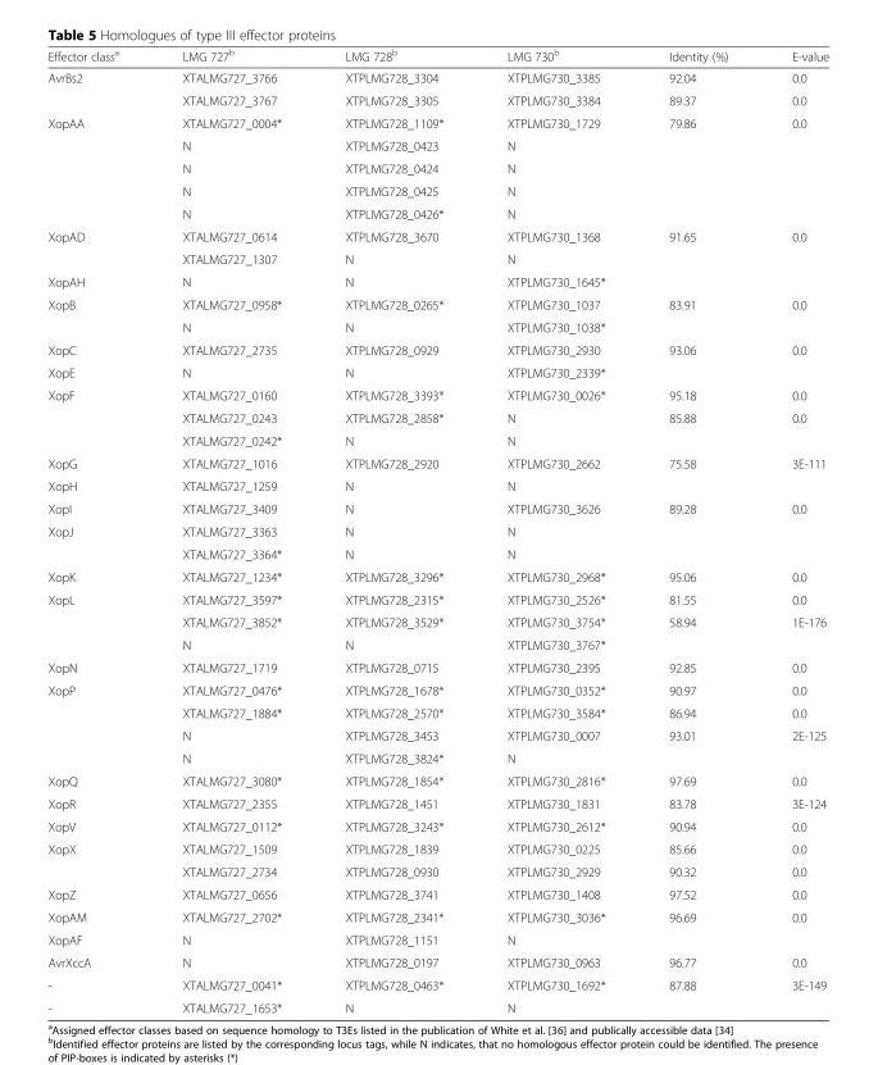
<table><thead><tr><td>Effector class<sup>a</sup></td><td>LMG 727<sup>b</sup></td><td>LMG 728<sup>b</sup></td><td>LMG 730<sup>b</sup></td><td>Identity (%)</td><td>E-value</td></tr></thead><tbody><tr><td rowspan="2">AvrBs2</td><td>XTALMG727_3766</td><td>XTPLMG728_3304</td><td>XTPLMG730_3385</td><td>92.04</td><td>0.0</td></tr><tr><td>XTALMG727_3767</td><td>XTPLMG728_3305</td><td>XTPLMG730_3384</td><td>89.37</td><td>0.0</td></tr><tr><td rowspan="5">XopAA</td><td>XTALMG727_0004*</td><td>XTPLMG728_1109*</td><td>XTPLMG730_1729</td><td>79.86</td><td>0.0</td></tr><tr><td>N</td><td>XTPLMG728_0423</td><td>N</td><td></td><td></td></tr><tr><td>N</td><td>XTPLMG728_0424</td><td>N</td><td></td><td></td></tr><tr><td>N</td><td>XTPLMG728_0425</td><td>N</td><td></td><td></td></tr><tr><td>N</td><td>XTPLMG728_0426*</td><td>N</td><td></td><td></td></tr><tr><td rowspan="2">XopAD</td><td>XTALMG727_0614</td><td>XTPLMG728_3670</td><td>XTPLMG730_1368</td><td>91.65</td><td>0.0</td></tr><tr><td>XTALMG727_1307</td><td>N</td><td>N</td><td></td><td></td></tr><tr><td>XopAH</td><td>N</td><td>N</td><td>XTPLMG730_1645*</td><td></td><td></td></tr><tr><td rowspan="2">XopB</td><td>XTALMG727_0958*</td><td>XTPLMG728_0265*</td><td>XTPLMG730_1037</td><td>83.91</td><td>0.0</td></tr><tr><td>N</td><td>N</td><td>XTPLMG730_1038*</td><td></td><td></td></tr><tr><td>XopC</td><td>XTALMG727_2735</td><td>XTPLMG728_0929</td><td>XTPLMG730_2930</td><td>93.06</td><td>0.0</td></tr><tr><td>XopE</td><td>N</td><td>N</td><td>XTPLMG730_2339*</td><td></td><td></td></tr><tr><td rowspan="3">XopF</td><td>XTALMG727_0160</td><td>XTPLMG728_3393*</td><td>XTPLMG730_0026*</td><td>95.18</td><td>0.0</td></tr><tr><td>XTALMG727_0243</td><td>XTPLMG728_2858*</td><td>N</td><td>85.88</td><td>0.0</td></tr><tr><td>XTALMG727_0242*</td><td>N</td><td>N</td><td></td><td></td></tr><tr><td>XopG</td><td>XTALMG727_1016</td><td>XTPLMG728_2920</td><td>XTPLMG730_2662</td><td>75.58</td><td>3E-111</td></tr><tr><td>XopH</td><td>XTALMG727_1259</td><td>N</td><td>N</td><td></td><td></td></tr><tr><td>XopI</td><td>XTALMG727_3409</td><td>N</td><td>XTPLMG730_3626</td><td>89.28</td><td>0.0</td></tr><tr><td rowspan="2">XopJ</td><td>XTALMG727_3363</td><td>N</td><td>N</td><td></td><td></td></tr><tr><td>XTALMG727_3364*</td><td>N</td><td>N</td><td></td><td></td></tr><tr><td>XopK</td><td>XTALMG727_1234*</td><td>XTPLMG728_3296*</td><td>XTPLMG730_2968*</td><td>95.06</td><td>0.0</td></tr><tr><td rowspan="3">XopL</td><td>XTALMG727_3597*</td><td>XTPLMG728_2315*</td><td>XTPLMG730_2526*</td><td>81.55</td><td>0.0</td></tr><tr><td>XTALMG727_3852*</td><td>XTPLMG728_3529*</td><td>XTPLMG730_3754*</td><td>58.94</td><td>1E-176</td></tr><tr><td>N</td><td>N</td><td>XTPLMG730_3767*</td><td></td><td></td></tr><tr><td>XopN</td><td>XTALMG727_1719</td><td>XTPLMG728_0715</td><td>XTPLMG730_2395</td><td>92.85</td><td>0.0</td></tr><tr><td rowspan="4">XopP</td><td>XTALMG727_0476*</td><td>XTPLMG728_1678*</td><td>XTPLMG730_0352*</td><td>90.97</td><td>0.0</td></tr><tr><td>XTALMG727_1884*</td><td>XTPLMG728_2570*</td><td>XTPLMG730_3584*</td><td>86.94</td><td>0.0</td></tr><tr><td>N</td><td>XTPLMG728_3453</td><td>XTPLMG730_0007</td><td>93.01</td><td>2E-125</td></tr><tr><td>N</td><td>XTPLMG728_3824*</td><td>N</td><td></td><td></td></tr><tr><td>XopQ</td><td>XTALMG727_3080*</td><td>XTPLMG728_1854*</td><td>XTPLMG730_2816*</td><td>97.69</td><td>0.0</td></tr><tr><td>XopR</td><td>XTALMG727_2355</td><td>XTPLMG728_1451</td><td>XTPLMG730_1831</td><td>83.78</td><td>3E-124</td></tr><tr><td>XopV</td><td>XTALMG727_0112*</td><td>XTPLMG728_3243*</td><td>XTPLMG730_2612*</td><td>90.94</td><td>0.0</td></tr><tr><td rowspan="2">XopX</td><td>XTALMG727_1509</td><td>XTPLMG728_1839</td><td>XTPLMG730_0225</td><td>85.66</td><td>0.0</td></tr><tr><td>XTALMG727_2734</td><td>XTPLMG728_0930</td><td>XTPLMG730_2929</td><td>90.32</td><td>0.0</td></tr><tr><td>XopZ</td><td>XTALMG727_0656</td><td>XTPLMG728_3741</td><td>XTPLMG730_1408</td><td>97.52</td><td>0.0</td></tr><tr><td>XopAM</td><td>XTALMG727_2702*</td><td>XTPLMG728_2341*</td><td>XTPLMG730_3036*</td><td>96.69</td><td>0.0</td></tr><tr><td>XopAF</td><td>N</td><td>XTPLMG728_1151</td><td>N</td><td></td><td></td></tr><tr><td>AvrXccA</td><td>N</td><td>XTPLMG728_0197</td><td>XTPLMG730_0963</td><td>96.77</td><td>0.0</td></tr><tr><td>-</td><td>XTALMG727_0041*</td><td>XTPLMG728_0463*</td><td>XTPLMG730_1692*</td><td>87.88</td><td>3E-149</td></tr><tr><td>-</td><td>XTALMG727_1653*</td><td>N</td><td>N</td><td></td><td></td></tr></tbody></table>